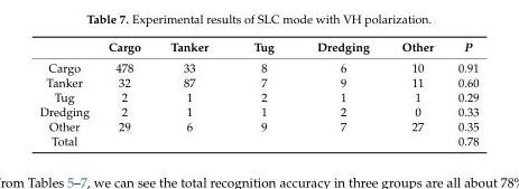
<table><thead><tr><td></td><td>Cargo</td><td>Tanker</td><td>Tug</td><td>Dredging</td><td>Other</td><td>P</td></tr></thead><tbody><tr><td>Cargo</td><td>478</td><td>33</td><td>8</td><td>6</td><td>10</td><td>0.91</td></tr><tr><td>Tanker</td><td>32</td><td>87</td><td>7</td><td>9</td><td>11</td><td>0.60</td></tr><tr><td>Tug</td><td>2</td><td>1</td><td>2</td><td>1</td><td>1</td><td>0.29</td></tr><tr><td>Dredging</td><td>2</td><td>1</td><td>1</td><td>2</td><td>0</td><td>0.33</td></tr><tr><td>Other</td><td>29</td><td>6</td><td>9</td><td>7</td><td>27</td><td>0.35</td></tr><tr><td>Total</td><td></td><td></td><td></td><td></td><td></td><td>0.78</td></tr></tbody></table>